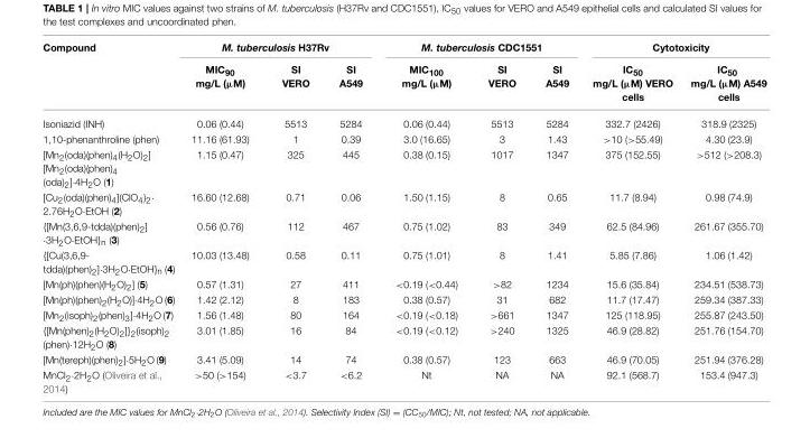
<table><thead><tr><td rowspan="2">Compound</td><td colspan="3">M. tuberculosis H37Rv</td><td colspan="3">M. tuberculosis CDC1551</td><td colspan="2">Cytotoxicity</td></tr><tr><td>MIC<sub>90</sub> mg/L (µM)</td><td>SI VERO</td><td>SI A549</td><td>MIC<sub>100</sub> mg/L (µM)</td><td>SI VERO</td><td>SI A549</td><td>IC<sub>50</sub> mg/L (µM) VERO cells</td><td>IC<sub>50</sub> mg/L (µM) A549 cells</td></tr></thead><tbody><tr><td>Isoniazid (INH)</td><td>0.06 (0.44)</td><td>5513</td><td>5284</td><td>0.06 (0.44)</td><td>5513</td><td>5284</td><td>332.7 (2426)</td><td>318.9 (2325)</td></tr><tr><td>1,10-phenanthroline (phen)</td><td>11.16 (61.93)</td><td>1</td><td>0.39</td><td>3.0 (16.65)</td><td>3</td><td>1.43</td><td>&gt;10 (&gt;55.49)</td><td>4.30 (23.9)</td></tr><tr><td>[Mn<sub>2</sub>(oda)(phen)<sub>4</sub>(H<sub>2</sub>O)<sub>2</sub>] [Mn<sub>2</sub>(oda)(phen)<sub>4</sub> (oda)<sub>2</sub>]·4H<sub>2</sub>O (1)</td><td>1.15 (0.47)</td><td>325</td><td>445</td><td>0.38 (0.15)</td><td>1017</td><td>1347</td><td>375 (152.55)</td><td>&gt;512 (&gt;208.3)</td></tr><tr><td>[Cu<sub>2</sub>(oda)(phen)<sub>4</sub>](ClO<sub>4</sub>)<sub>2</sub>· 2.76H<sub>2</sub>O·EtOH (2)</td><td>16.60 (12.68)</td><td>0.71</td><td>0.06</td><td>1.50 (1.15)</td><td>8</td><td>0.65</td><td>11.7 (8.94)</td><td>0.98 (74.9)</td></tr><tr><td>{[Mn(3,6,9-tdda)(phen)<sub>2</sub>] ·3H<sub>2</sub>O·EtOH}<sub>n</sub> (3)</td><td>0.56 (0.76)</td><td>112</td><td>467</td><td>0.75 (1.02)</td><td>83</td><td>349</td><td>62.5 (84.96)</td><td>261.67 (355.70)</td></tr><tr><td>{[Cu(3,6,9- tdda)(phen)<sub>2</sub>]·3H<sub>2</sub>O·EtOH}<sub>n</sub> (4)</td><td>10.03 (13.48)</td><td>0.58</td><td>0.11</td><td>0.75 (1.01)</td><td>8</td><td>1.41</td><td>5.85 (7.86)</td><td>1.06 (1.42)</td></tr><tr><td>[Mn(ph)(phen)(H<sub>2</sub>O)<sub>2</sub>] (5)</td><td>0.57 (1.31)</td><td>27</td><td>411</td><td>&lt;0.19 (&lt;0.44)</td><td>&gt;82</td><td>1234</td><td>15.6 (35.84)</td><td>234.51 (538.73)</td></tr><tr><td>[Mn(ph)(phen)<sub>2</sub>(H<sub>2</sub>O)]·4H<sub>2</sub>O (6)</td><td>1.42 (2.12)</td><td>8</td><td>183</td><td>0.38 (0.57)</td><td>31</td><td>682</td><td>11.7 (17.47)</td><td>259.34 (387.33)</td></tr><tr><td>[Mn<sub>2</sub>(isoph)<sub>2</sub>(phen)<sub>3</sub>]·4H<sub>2</sub>O (7)</td><td>1.56 (1.48)</td><td>80</td><td>164</td><td>&lt;0.19 (&lt;0.18)</td><td>&gt;661</td><td>1347</td><td>125 (118.95)</td><td>255.87 (243.50)</td></tr><tr><td>{[Mn(phen)<sub>2</sub>(H<sub>2</sub>O)<sub>2</sub>]}<sub>2</sub>(isoph)<sub>2</sub> (phen)·12H<sub>2</sub>O (8)</td><td>3.01 (1.85)</td><td>16</td><td>84</td><td>&lt;0.19 (&lt;0.12)</td><td>&gt;240</td><td>1325</td><td>46.9 (28.82)</td><td>251.76 (154.70)</td></tr><tr><td>[Mn(tereph)(phen)<sub>2</sub>]·5H<sub>2</sub>O (9)</td><td>3.41 (5.09)</td><td>14</td><td>74</td><td>0.38 (0.57)</td><td>123</td><td>663</td><td>46.9 (70.05)</td><td>251.94 (376.28)</td></tr><tr><td>MnCl<sub>2</sub>·2H<sub>2</sub>O (Oliveira et al., 2014)</td><td>&gt;50 (&gt;154)</td><td>&lt;3.7</td><td>&lt;6.2</td><td>Nt</td><td>NA</td><td>NA</td><td>92.1 (568.7)</td><td>153.4 (947.3)</td></tr></tbody></table>